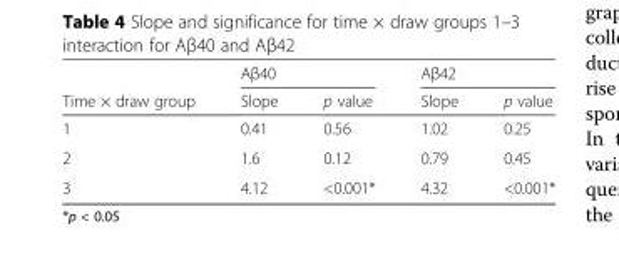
<table><thead><tr><td rowspan="2">Time × draw group</td><td colspan="2">Aβ40</td><td colspan="2">Aβ42</td></tr><tr><td>Slope</td><td>p value</td><td>Slope</td><td>p value</td></tr></thead><tbody><tr><td>1</td><td>0.41</td><td>0.56</td><td>1.02</td><td>0.25</td></tr><tr><td>2</td><td>1.6</td><td>0.12</td><td>0.79</td><td>0.45</td></tr><tr><td>3</td><td>4.12</td><td>&lt;0.001*</td><td>4.32</td><td>&lt;0.001*</td></tr></tbody></table>